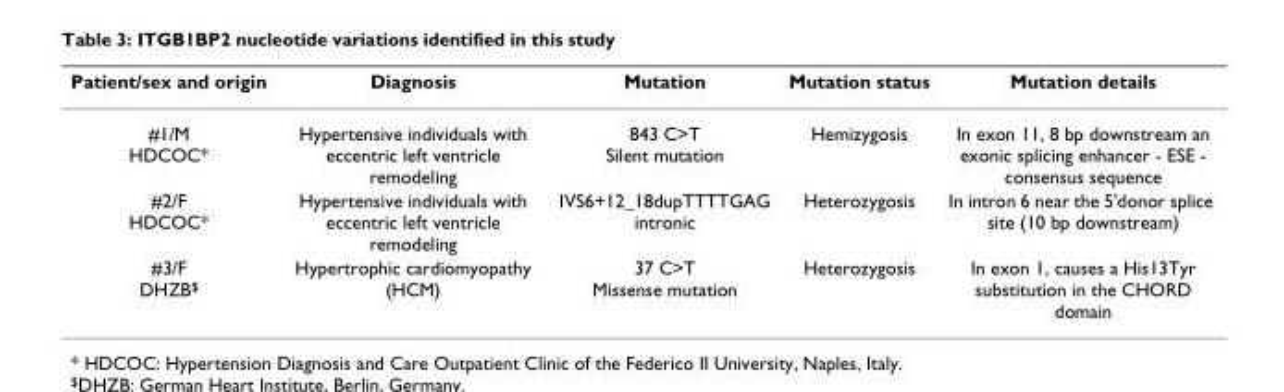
<table><thead><tr><td>Patient/sex and origin</td><td>Diagnosis</td><td>Mutation</td><td>Mutation status</td><td>Mutation details</td></tr></thead><tbody><tr><td>#1/M HDCOC*</td><td>Hypertensive individuals with eccentric left ventricle remodeling</td><td>843 C&gt;T Silent mutation</td><td>Hemizygosis</td><td>In exon 11, 8 bp downstream an exonic splicing enhancer - ESE - consensus sequence</td></tr><tr><td>#2/F HDCOC*</td><td>Hypertensive individuals with eccentric left ventricle remodeling</td><td>IVS6+12_18dupTTTTGAG intronic</td><td>Heterozygosis</td><td>In intron 6 near the 5&#x27;donor splice site (10 bp downstream)</td></tr><tr><td>#3/F DHZB<sup>$</sup></td><td>Hypertrophic cardiomyopathy (HCM)</td><td>37 C&gt;T Missense mutation</td><td>Heterozygosis</td><td>In exon 1, causes a His13Tyr substitution in the CHORD domain</td></tr></tbody></table>